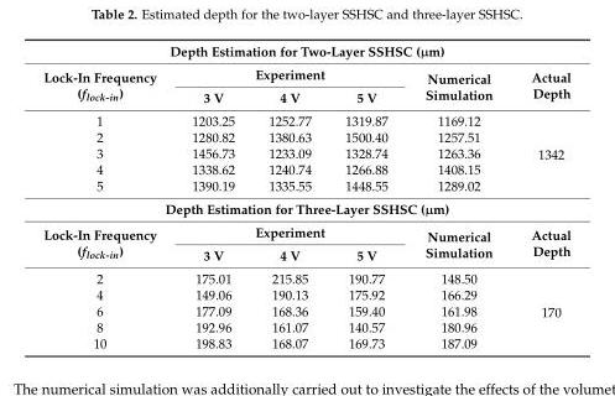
<table><tbody><tr><td colspan="6">Depth Estimation for Two-Layer SSHSC (µm)</td></tr><tr><td rowspan="2">Lock-In Frequency (f<sub>lock-in</sub>)</td><td colspan="3">Experiment</td><td rowspan="2">Numerical Simulation</td><td rowspan="2">Actual Depth</td></tr><tr><td>3 V</td><td>4 V</td><td>5 V</td></tr><tr><td>1</td><td>1203.25</td><td>1252.77</td><td>1319.87</td><td>1169.12</td><td rowspan="5">1342</td></tr><tr><td>2</td><td>1280.82</td><td>1380.63</td><td>1500.40</td><td>1257.51</td></tr><tr><td>3</td><td>1456.73</td><td>1233.09</td><td>1328.74</td><td>1263.36</td></tr><tr><td>4</td><td>1338.62</td><td>1240.74</td><td>1266.88</td><td>1408.15</td></tr><tr><td>5</td><td>1390.19</td><td>1335.55</td><td>1448.55</td><td>1289.02</td></tr><tr><td colspan="6">Depth Estimation for Three-Layer SSHSC (µm)</td></tr><tr><td rowspan="2">Lock-In Frequency (f<sub>lock-in</sub>)</td><td colspan="3">Experiment</td><td rowspan="2">Numerical Simulation</td><td rowspan="2">Actual Depth</td></tr><tr><td>3 V</td><td>4 V</td><td>5 V</td></tr><tr><td>2</td><td>175.01</td><td>215.85</td><td>190.77</td><td>148.50</td><td rowspan="5">170</td></tr><tr><td>4</td><td>149.06</td><td>190.13</td><td>175.92</td><td>166.29</td></tr><tr><td>6</td><td>177.09</td><td>168.36</td><td>159.40</td><td>161.98</td></tr><tr><td>8</td><td>192.96</td><td>161.07</td><td>140.57</td><td>180.96</td></tr><tr><td>10</td><td>198.83</td><td>168.07</td><td>169.73</td><td>187.09</td></tr></tbody></table>